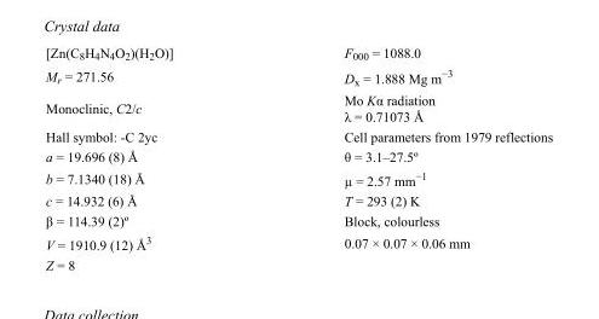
<table><tbody><tr><td>[Zn(C<sub>8</sub>H<sub>4</sub>N<sub>4</sub>O<sub>2</sub>)(H<sub>2</sub>O)]</td><td>F<sub>000</sub> = 1088.0</td></tr><tr><td>M<sub>r</sub> = 271.56</td><td>D<sub>x</sub> = 1.888 Mg m<sup>−3</sup></td></tr><tr><td>Monoclinic, C2/c</td><td>Mo Kα radiation λ = 0.71073 Å</td></tr><tr><td>Hall symbol: -C 2yc</td><td>Cell parameters from 1979 reflections</td></tr><tr><td>a = 19.696 (8) Å</td><td>θ = 3.1–27.5º</td></tr><tr><td>b = 7.1340 (18) Å</td><td>µ = 2.57 mm<sup>−1</sup></td></tr><tr><td>c = 14.932 (6) Å</td><td>T = 293 (2) K</td></tr><tr><td>β = 114.39 (2)º</td><td>Block, colourless</td></tr><tr><td>V = 1910.9 (12) Å<sup>3</sup></td><td>0.07 × 0.07 × 0.06 mm</td></tr><tr><td>Z = 8</td><td></td></tr></tbody></table>